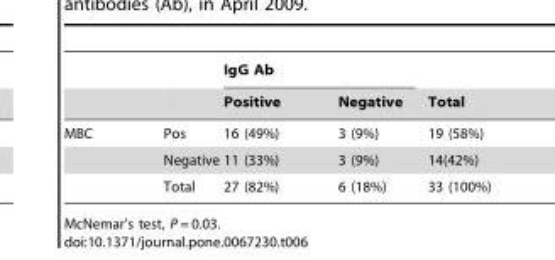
<table><thead><tr><td rowspan="2"></td><td rowspan="2"></td><td colspan="2">IgG Ab</td><td rowspan="2">Total</td></tr><tr><td>Positive</td><td>Negative</td></tr></thead><tbody><tr><td rowspan="3">MBC</td><td>Pos</td><td>16 (49%)</td><td>3 (9%)</td><td>19 (58%)</td></tr><tr><td>Negative</td><td>11 (33%)</td><td>3 (9%)</td><td>14(42%)</td></tr><tr><td>Total</td><td>27 (82%)</td><td>6 (18%)</td><td>33 (100%)</td></tr></tbody></table>